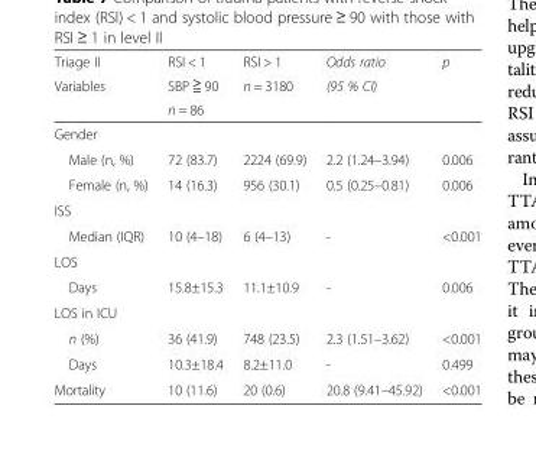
<table><thead><tr><td rowspan="3">Triage II Variables</td><td rowspan="3">RSI &lt; 1 SBP ≧ 90 n = 86</td><td rowspan="3">RSI &gt; 1 n = 3180</td><td rowspan="3">Odds ratio (95 % CI)</td><td rowspan="3">p</td></tr><tr></tr><tr></tr></thead><tbody><tr><td colspan="5">Gender</td></tr><tr><td>Male (n, %)</td><td>72 (83.7)</td><td>2224 (69.9)</td><td>2.2 (1.24–3.94)</td><td>0.006</td></tr><tr><td>Female (n, %)</td><td>14 (16.3)</td><td>956 (30.1)</td><td>0.5 (0.25–0.81)</td><td>0.006</td></tr><tr><td colspan="5">ISS</td></tr><tr><td>Median (IQR)</td><td>10 (4–18)</td><td>6 (4–13)</td><td>-</td><td>&lt;0.001</td></tr><tr><td colspan="5">LOS</td></tr><tr><td>Days</td><td>15.8±15.3</td><td>11.1±10.9</td><td>-</td><td>0.006</td></tr><tr><td colspan="5">LOS in ICU</td></tr><tr><td>n (%)</td><td>36 (41.9)</td><td>748 (23.5)</td><td>2.3 (1.51–3.62)</td><td>&lt;0.001</td></tr><tr><td>Days</td><td>10.3±18.4</td><td>8.2±11.0</td><td>-</td><td>0.499</td></tr><tr><td>Mortality</td><td>10 (11.6)</td><td>20 (0.6)</td><td>20.8 (9.41–45.92)</td><td>&lt;0.001</td></tr></tbody></table>